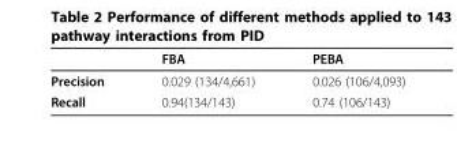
<table><thead><tr><td></td><td>FBA</td><td>PEBA</td></tr></thead><tbody><tr><td>Precision</td><td>0.029 (134/4,661)</td><td>0.026 (106/4,093)</td></tr><tr><td>Recall</td><td>0.94(134/143)</td><td>0.74 (106/143)</td></tr></tbody></table>